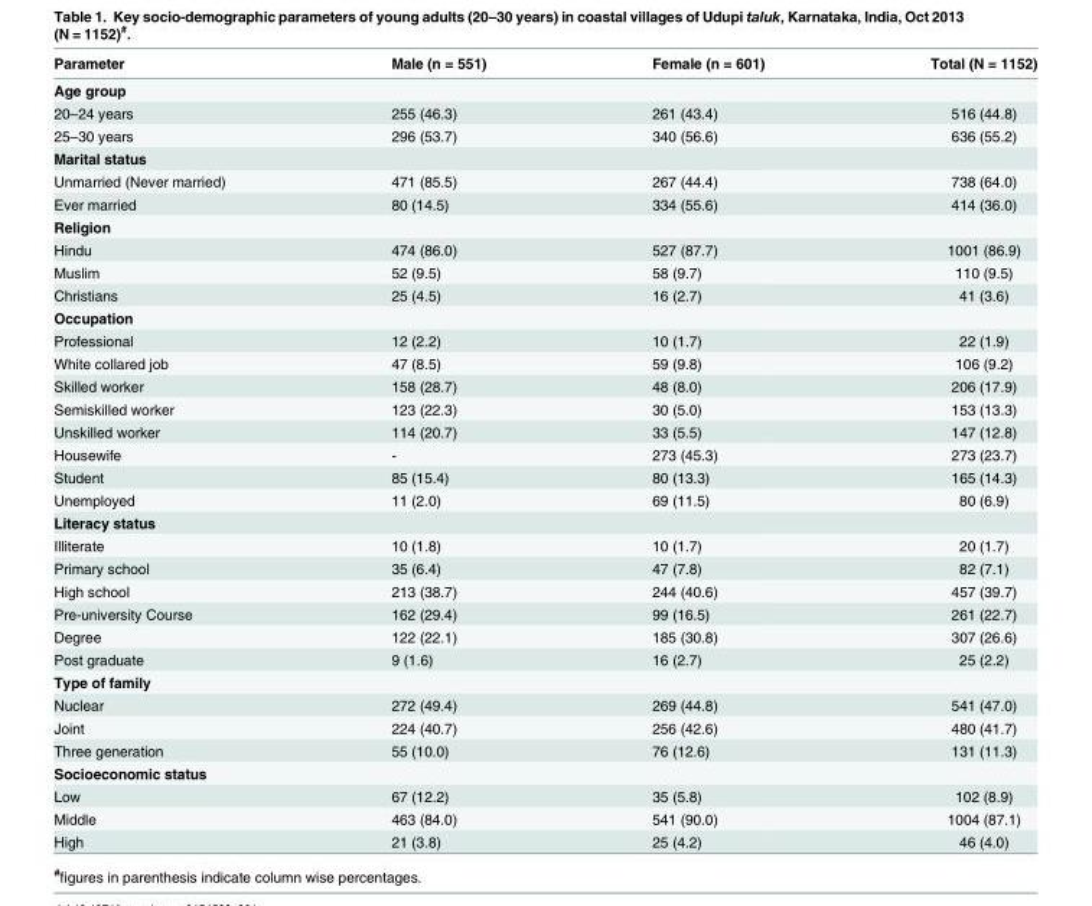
<table><thead><tr><td>Parameter</td><td>Male (n = 551)</td><td>Female (n = 601)</td><td>Total (N = 1152)</td></tr></thead><tbody><tr><td colspan="4">Age group</td></tr><tr><td>20–24 years</td><td>255 (46.3)</td><td>261 (43.4)</td><td>516 (44.8)</td></tr><tr><td>25–30 years</td><td>296 (53.7)</td><td>340 (56.6)</td><td>636 (55.2)</td></tr><tr><td colspan="4">Marital status</td></tr><tr><td>Unmarried (Never married)</td><td>471 (85.5)</td><td>267 (44.4)</td><td>738 (64.0)</td></tr><tr><td>Ever married</td><td>80 (14.5)</td><td>334 (55.6)</td><td>414 (36.0)</td></tr><tr><td colspan="4">Religion</td></tr><tr><td>Hindu</td><td>474 (86.0)</td><td>527 (87.7)</td><td>1001 (86.9)</td></tr><tr><td>Muslim</td><td>52 (9.5)</td><td>58 (9.7)</td><td>110 (9.5)</td></tr><tr><td>Christians</td><td>25 (4.5)</td><td>16 (2.7)</td><td>41 (3.6)</td></tr><tr><td colspan="4">Occupation</td></tr><tr><td>Professional</td><td>12 (2.2)</td><td>10 (1.7)</td><td>22 (1.9)</td></tr><tr><td>White collared job</td><td>47 (8.5)</td><td>59 (9.8)</td><td>106 (9.2)</td></tr><tr><td>Skilled worker</td><td>158 (28.7)</td><td>48 (8.0)</td><td>206 (17.9)</td></tr><tr><td>Semiskilled worker</td><td>123 (22.3)</td><td>30 (5.0)</td><td>153 (13.3)</td></tr><tr><td>Unskilled worker</td><td>114 (20.7)</td><td>33 (5.5)</td><td>147 (12.8)</td></tr><tr><td>Housewife</td><td>-</td><td>273 (45.3)</td><td>273 (23.7)</td></tr><tr><td>Student</td><td>85 (15.4)</td><td>80 (13.3)</td><td>165 (14.3)</td></tr><tr><td>Unemployed</td><td>11 (2.0)</td><td>69 (11.5)</td><td>80 (6.9)</td></tr><tr><td colspan="4">Literacy status</td></tr><tr><td>Illiterate</td><td>10 (1.8)</td><td>10 (1.7)</td><td>20 (1.7)</td></tr><tr><td>Primary school</td><td>35 (6.4)</td><td>47 (7.8)</td><td>82 (7.1)</td></tr><tr><td>High school</td><td>213 (38.7)</td><td>244 (40.6)</td><td>457 (39.7)</td></tr><tr><td>Pre-university Course</td><td>162 (29.4)</td><td>99 (16.5)</td><td>261 (22.7)</td></tr><tr><td>Degree</td><td>122 (22.1)</td><td>185 (30.8)</td><td>307 (26.6)</td></tr><tr><td>Post graduate</td><td>9 (1.6)</td><td>16 (2.7)</td><td>25 (2.2)</td></tr><tr><td colspan="4">Type of family</td></tr><tr><td>Nuclear</td><td>272 (49.4)</td><td>269 (44.8)</td><td>541 (47.0)</td></tr><tr><td>Joint</td><td>224 (40.7)</td><td>256 (42.6)</td><td>480 (41.7)</td></tr><tr><td>Three generation</td><td>55 (10.0)</td><td>76 (12.6)</td><td>131 (11.3)</td></tr><tr><td colspan="4">Socioeconomic status</td></tr><tr><td>Low</td><td>67 (12.2)</td><td>35 (5.8)</td><td>102 (8.9)</td></tr><tr><td>Middle</td><td>463 (84.0)</td><td>541 (90.0)</td><td>1004 (87.1)</td></tr><tr><td>High</td><td>21 (3.8)</td><td>25 (4.2)</td><td>46 (4.0)</td></tr></tbody></table>